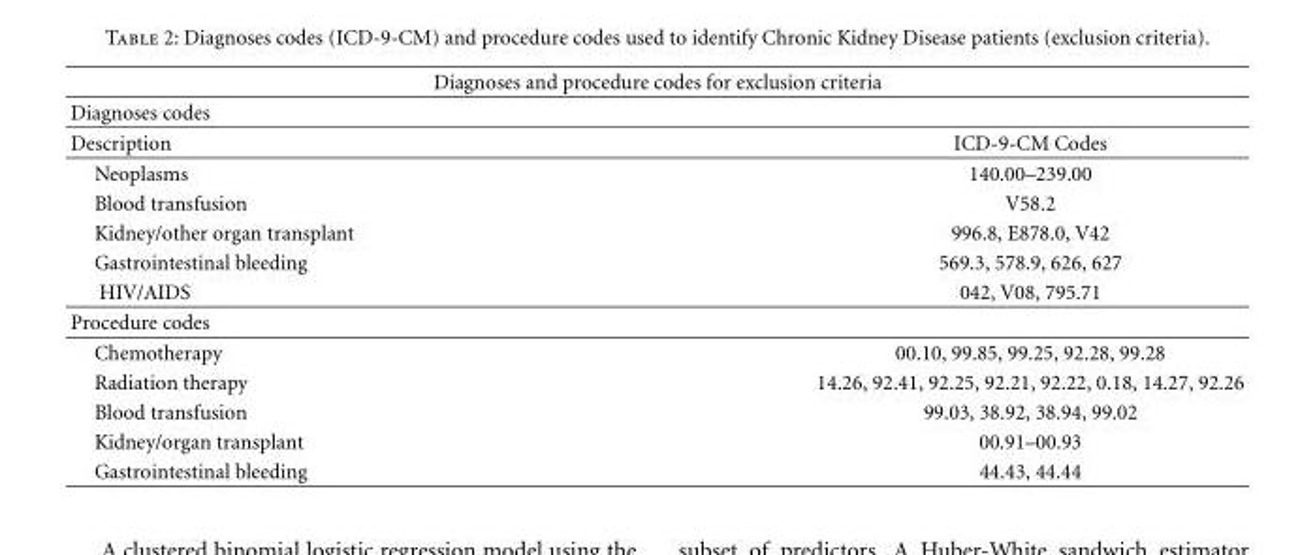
<table><thead><tr><td colspan="2">Diagnoses and procedure codes for exclusion criteria</td></tr><tr><td>Diagnoses codes</td><td></td></tr></thead><tbody><tr><td>Description</td><td>ICD-9-CM Codes</td></tr><tr><td>Neoplasms</td><td>140.00–239.00</td></tr><tr><td>Blood transfusion</td><td>V58.2</td></tr><tr><td>Kidney/other organ transplant</td><td>996.8, E878.0, V42</td></tr><tr><td>Gastrointestinal bleeding</td><td>569.3, 578.9, 626, 627</td></tr><tr><td>HIV/AIDS</td><td>042, V08, 795.71</td></tr><tr><td colspan="2">Procedure codes</td></tr><tr><td>Chemotherapy</td><td>00.10, 99.85, 99.25, 92.28, 99.28</td></tr><tr><td>Radiation therapy</td><td>14.26, 92.41, 92.25, 92.21, 92.22, 0.18, 14.27, 92.26</td></tr><tr><td>Blood transfusion</td><td>99.03, 38.92, 38.94, 99.02</td></tr><tr><td>Kidney/organ transplant</td><td>00.91–00.93</td></tr><tr><td>Gastrointestinal bleeding</td><td>44.43, 44.44</td></tr></tbody></table>